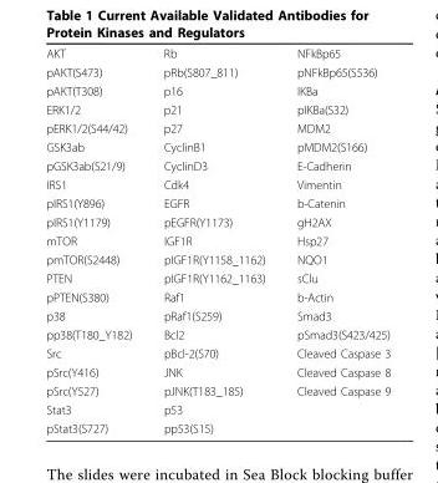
<table><tbody><tr><td>AKT</td><td>Rb</td><td>NFkBp65</td></tr><tr><td>pAKT(S473)</td><td>pRb(S807_811)</td><td>pNFkBp65(S536)</td></tr><tr><td>pAKT(T308)</td><td>p16</td><td>IKBa</td></tr><tr><td>ERK1/2</td><td>p21</td><td>pIKBa(S32)</td></tr><tr><td>pERK1/2(S44/42)</td><td>p27</td><td>MDM2</td></tr><tr><td>GSK3ab</td><td>CyclinB1</td><td>pMDM2(S166)</td></tr><tr><td>pGSK3ab(S21/9)</td><td>CyclinD3</td><td>E-Cadherin</td></tr><tr><td>IRS1</td><td>Cdk4</td><td>Vimentin</td></tr><tr><td>pIRS1(Y896)</td><td>EGFR</td><td>b-Catenin</td></tr><tr><td>pIRS1(Y1179)</td><td>pEGFR(Y1173)</td><td>gH2AX</td></tr><tr><td>mTOR</td><td>IGF1R</td><td>Hsp27</td></tr><tr><td>pmTOR(S2448)</td><td>pIGF1R(Y1158_1162)</td><td>NQO1</td></tr><tr><td>PTEN</td><td>pIGF1R(Y1162_1163)</td><td>sClu</td></tr><tr><td>pPTEN(S380)</td><td>Raf1</td><td>b-Actin</td></tr><tr><td>p38</td><td>pRaf1(S259)</td><td>Smad3</td></tr><tr><td>pp38(T180_Y182)</td><td>Bcl2</td><td>pSmad3(S423/425)</td></tr><tr><td>Src</td><td>pBcl-2(S70)</td><td>Cleaved Caspase 3</td></tr><tr><td>pSrc(Y416)</td><td>JNK</td><td>Cleaved Caspase 8</td></tr><tr><td>pSrc(Y527)</td><td>pJNK(T183_185)</td><td>Cleaved Caspase 9</td></tr><tr><td>Stat3</td><td>p53</td><td></td></tr><tr><td>pStat3(S727)</td><td>pp53(S15)</td><td></td></tr></tbody></table>